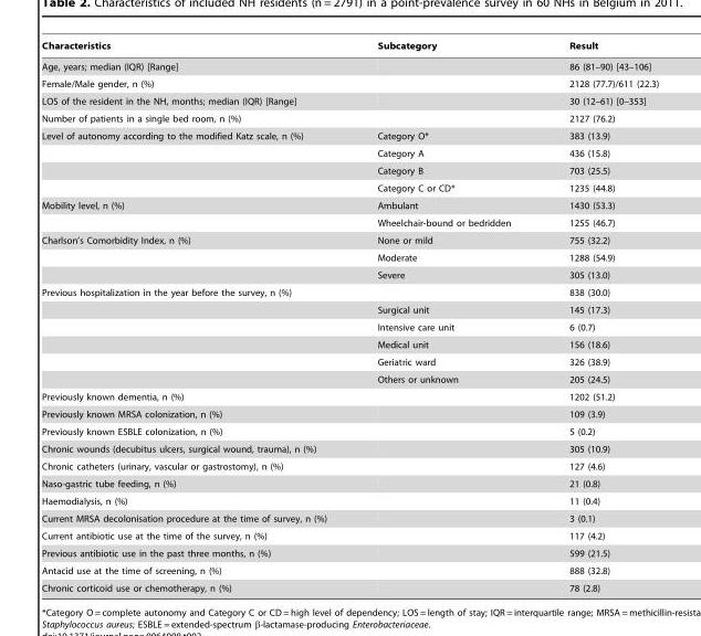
<table><thead><tr><td>Characteristics</td><td>Subcategory</td><td>Result</td></tr></thead><tbody><tr><td>Age, years; median (IQR) [Range]</td><td></td><td>86 (81–90) [43–106]</td></tr><tr><td>Female/Male gender, n (%)</td><td></td><td>2128 (77.7)/611 (22.3)</td></tr><tr><td>LOS of the resident in the NH, months; median (IQR) [Range]</td><td></td><td>30 (12–61) [0–353]</td></tr><tr><td>Number of patients in a single bed room, n (%)</td><td></td><td>2127 (76.2)</td></tr><tr><td rowspan="4">Level of autonomy according to the modified Katz scale, n (%)</td><td>Category O*</td><td>383 (13.9)</td></tr><tr><td>Category A</td><td>436 (15.8)</td></tr><tr><td>Category B</td><td>703 (25.5)</td></tr><tr><td>Category C or CD*</td><td>1235 (44.8)</td></tr><tr><td rowspan="2">Mobility level, n (%)</td><td>Ambulant</td><td>1430 (53.3)</td></tr><tr><td>Wheelchair-bound or bedridden</td><td>1255 (46.7)</td></tr><tr><td rowspan="3">Charlson’s Comorbidity Index, n (%)</td><td>None or mild</td><td>755 (32.2)</td></tr><tr><td>Moderate</td><td>1288 (54.9)</td></tr><tr><td>Severe</td><td>305 (13.0)</td></tr><tr><td rowspan="6">Previous hospitalization in the year before the survey, n (%)</td><td></td><td>838 (30.0)</td></tr><tr><td>Surgical unit</td><td>145 (17.3)</td></tr><tr><td>Intensive care unit</td><td>6 (0.7)</td></tr><tr><td>Medical unit</td><td>156 (18.6)</td></tr><tr><td>Geriatric ward</td><td>326 (38.9)</td></tr><tr><td>Others or unknown</td><td>205 (24.5)</td></tr><tr><td>Previously known dementia, n (%)</td><td></td><td>1202 (51.2)</td></tr><tr><td>Previously known MRSA colonization, n (%)</td><td></td><td>109 (3.9)</td></tr><tr><td>Previously known ESBLE colonization, n (%)</td><td></td><td>5 (0.2)</td></tr><tr><td>Chronic wounds (decubitus ulcers, surgical wound, trauma), n (%)</td><td></td><td>305 (10.9)</td></tr><tr><td>Chronic catheters (urinary, vascular or gastrostomy), n (%)</td><td></td><td>127 (4.6)</td></tr><tr><td>Naso-gastric tube feeding, n (%)</td><td></td><td>21 (0.8)</td></tr><tr><td>Haemodialysis, n (%)</td><td></td><td>11 (0.4)</td></tr><tr><td>Current MRSA decolonisation procedure at the time of survey, n (%)</td><td></td><td>3 (0.1)</td></tr><tr><td>Current antibiotic use at the time of the survey, n (%)</td><td></td><td>117 (4.2)</td></tr><tr><td>Previous antibiotic use in the past three months, n (%)</td><td></td><td>599 (21.5)</td></tr><tr><td>Antacid use at the time of screening, n (%)</td><td></td><td>888 (32.8)</td></tr><tr><td>Chronic corticoid use or chemotherapy, n (%)</td><td></td><td>78 (2.8)</td></tr></tbody></table>